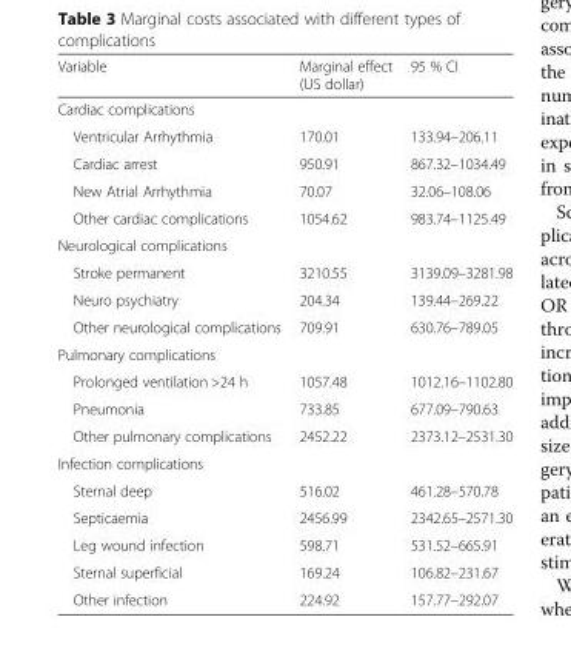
<table><thead><tr><td>Variable</td><td>Marginal effect (US dollar)</td><td>95 % CI</td></tr></thead><tbody><tr><td colspan="3">Cardiac complications</td></tr><tr><td>Ventricular Arrhythmia</td><td>170.01</td><td>133.94–206.11</td></tr><tr><td>Cardiac arrest</td><td>950.91</td><td>867.32–1034.49</td></tr><tr><td>New Atrial Arrhythmia</td><td>70.07</td><td>32.06–108.06</td></tr><tr><td>Other cardiac complications</td><td>1054.62</td><td>983.74–1125.49</td></tr><tr><td colspan="3">Neurological complications</td></tr><tr><td>Stroke permanent</td><td>3210.55</td><td>3139.09–3281.98</td></tr><tr><td>Neuro psychiatry</td><td>204.34</td><td>139.44–269.22</td></tr><tr><td>Other neurological complications</td><td>709.91</td><td>630.76–789.05</td></tr><tr><td colspan="3">Pulmonary complications</td></tr><tr><td>Prolonged ventilation &gt;24 h</td><td>1057.48</td><td>1012.16–1102.80</td></tr><tr><td>Pneumonia</td><td>733.85</td><td>677.09–790.63</td></tr><tr><td>Other pulmonary complications</td><td>2452.22</td><td>2373.12–2531.30</td></tr><tr><td colspan="3">Infection complications</td></tr><tr><td>Sternal deep</td><td>516.02</td><td>461.28–570.78</td></tr><tr><td>Septicaemia</td><td>2456.99</td><td>2342.65–2571.30</td></tr><tr><td>Leg wound infection</td><td>598.71</td><td>531.52–665.91</td></tr><tr><td>Sternal superficial</td><td>169.24</td><td>106.82–231.67</td></tr><tr><td>Other infection</td><td>224.92</td><td>157.77–292.07</td></tr></tbody></table>